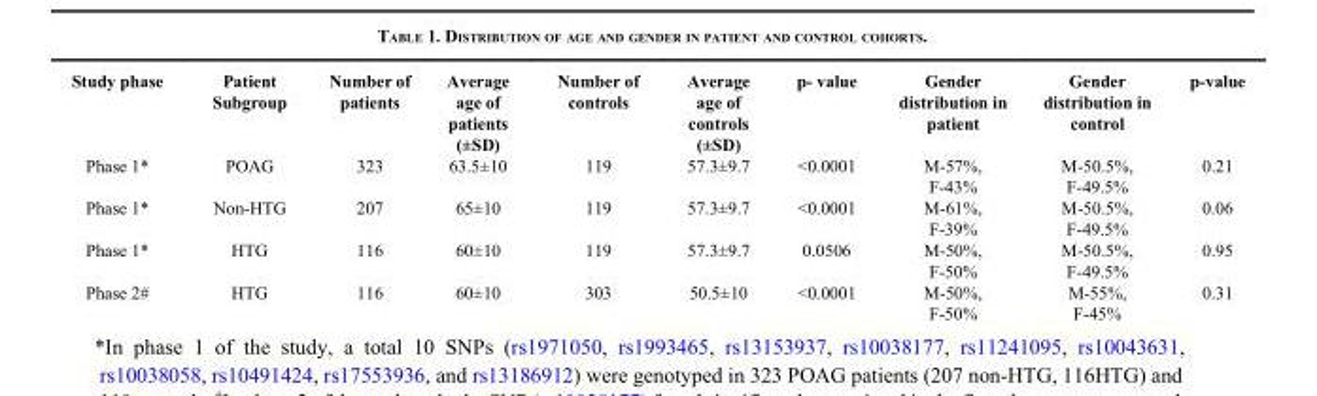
<table><thead><tr><td>Study phase</td><td>Patient Subgroup</td><td>Number of patients</td><td>Average age of patients (±SD)</td><td>Number of controls</td><td>Average age of controls (±SD)</td><td>p- value</td><td>Gender distribution in patient</td><td>Gender distribution in control</td><td>p-value</td></tr></thead><tbody><tr><td>Phase 1*</td><td>POAG</td><td>323</td><td>63.5±10</td><td>119</td><td>57.3±9.7</td><td>&lt;0.0001</td><td>M-57%, F-43%</td><td>M-50.5%, F-49.5%</td><td>0.21</td></tr><tr><td>Phase 1*</td><td>Non-HTG</td><td>207</td><td>65±10</td><td>119</td><td>57.3±9.7</td><td>&lt;0.0001</td><td>M-61%, F-39%</td><td>M-50.5%, F-49.5%</td><td>0.06</td></tr><tr><td>Phase 1*</td><td>HTG</td><td>116</td><td>60±10</td><td>119</td><td>57.3±9.7</td><td>0.0506</td><td>M-50%, F-50%</td><td>M-50.5%, F-49.5%</td><td>0.95</td></tr><tr><td>Phase 2#</td><td>HTG</td><td>116</td><td>60±10</td><td>303</td><td>50.5±10</td><td>&lt;0.0001</td><td>M-50%, F-50%</td><td>M-55%, F-45%</td><td>0.31</td></tr></tbody></table>